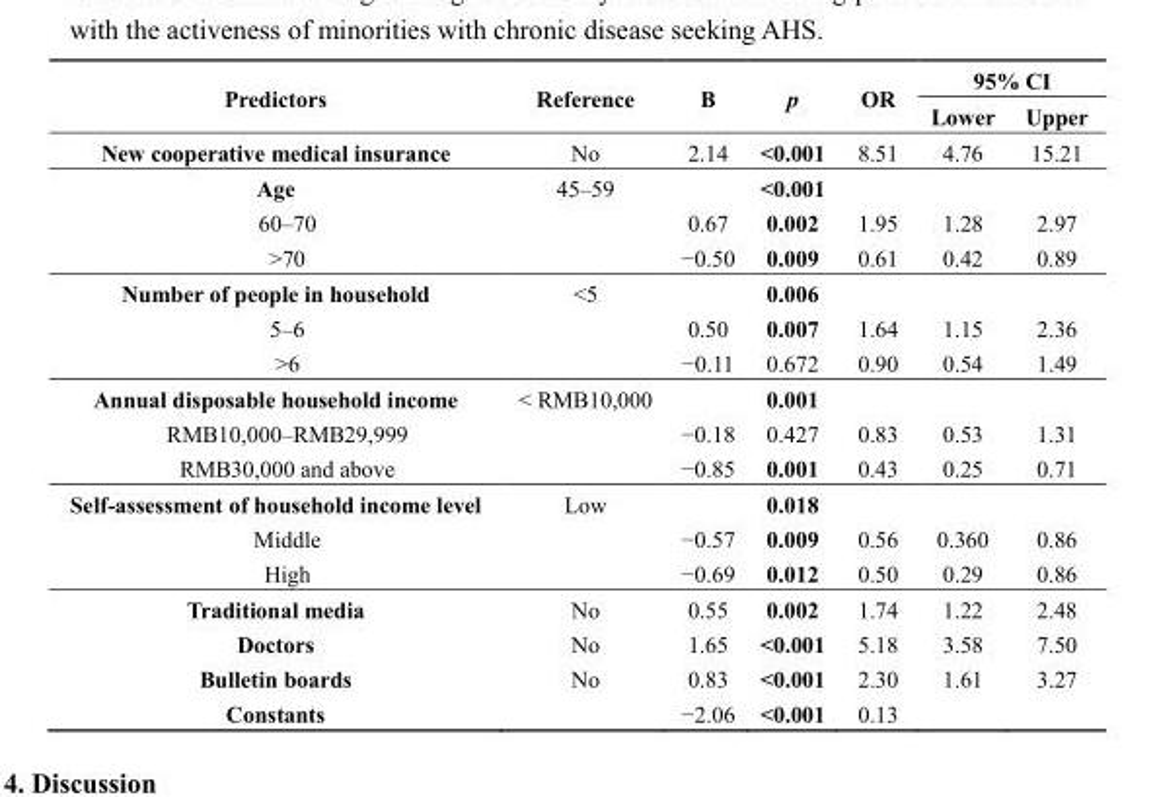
<table><thead><tr><td rowspan="2">Predictors</td><td rowspan="2">Reference</td><td rowspan="2">B</td><td rowspan="2">p</td><td rowspan="2">OR</td><td colspan="2">95% CI</td></tr><tr><td>Lower</td><td>Upper</td></tr></thead><tbody><tr><td>New cooperative medical insurance</td><td>No</td><td>2.14</td><td>&lt;0.001</td><td>8.51</td><td>4.76</td><td>15.21</td></tr><tr><td>Age</td><td>45–59</td><td></td><td>&lt;0.001</td><td></td><td></td><td></td></tr><tr><td>60–70</td><td></td><td>0.67</td><td>0.002</td><td>1.95</td><td>1.28</td><td>2.97</td></tr><tr><td>&gt;70</td><td></td><td>−0.50</td><td>0.009</td><td>0.61</td><td>0.42</td><td>0.89</td></tr><tr><td>Number of people in household</td><td>&lt;5</td><td></td><td>0.006</td><td></td><td></td><td></td></tr><tr><td>5–6</td><td></td><td>0.50</td><td>0.007</td><td>1.64</td><td>1.15</td><td>2.36</td></tr><tr><td>&gt;6</td><td></td><td>−0.11</td><td>0.672</td><td>0.90</td><td>0.54</td><td>1.49</td></tr><tr><td>Annual disposable household income</td><td>&lt; RMB10,000</td><td></td><td>0.001</td><td></td><td></td><td></td></tr><tr><td>RMB10,000–RMB29,999</td><td></td><td>−0.18</td><td>0.427</td><td>0.83</td><td>0.53</td><td>1.31</td></tr><tr><td>RMB30,000 and above</td><td></td><td>−0.85</td><td>0.001</td><td>0.43</td><td>0.25</td><td>0.71</td></tr><tr><td>Self-assessment of household income level</td><td>Low</td><td></td><td>0.018</td><td></td><td></td><td></td></tr><tr><td>Middle</td><td></td><td>−0.57</td><td>0.009</td><td>0.56</td><td>0.360</td><td>0.86</td></tr><tr><td>High</td><td></td><td>−0.69</td><td>0.012</td><td>0.50</td><td>0.29</td><td>0.86</td></tr><tr><td>Traditional media</td><td>No</td><td>0.55</td><td>0.002</td><td>1.74</td><td>1.22</td><td>2.48</td></tr><tr><td>Doctors</td><td>No</td><td>1.65</td><td>&lt;0.001</td><td>5.18</td><td>3.58</td><td>7.50</td></tr><tr><td>Bulletin boards</td><td>No</td><td>0.83</td><td>&lt;0.001</td><td>2.30</td><td>1.61</td><td>3.27</td></tr><tr><td>Constants</td><td></td><td>−2.06</td><td>&lt;0.001</td><td>0.13</td><td></td><td></td></tr></tbody></table>